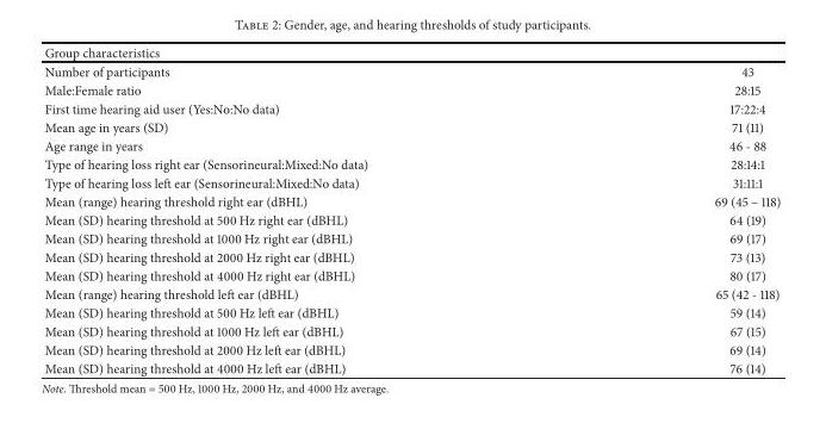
<table><thead><tr><td>Group characteristics</td><td></td></tr></thead><tbody><tr><td>Number of participants</td><td>43</td></tr><tr><td>Male:Female ratio</td><td>28:15</td></tr><tr><td>First time hearing aid user (Yes:No:No data)</td><td>17:22:4</td></tr><tr><td>Mean age in years (SD)</td><td>71 (11)</td></tr><tr><td>Age range in years</td><td>46 - 88</td></tr><tr><td>Type of hearing loss right ear (Sensorineural:Mixed:No data)</td><td>28:14:1</td></tr><tr><td>Type of hearing loss left ear (Sensorineural:Mixed:No data)</td><td>31:11:1</td></tr><tr><td>Mean (range) hearing threshold right ear (dBHL)</td><td>69 (45 – 118)</td></tr><tr><td>Mean (SD) hearing threshold at 500 Hz right ear (dBHL)</td><td>64 (19)</td></tr><tr><td>Mean (SD) hearing threshold at 1000 Hz right ear (dBHL)</td><td>69 (17)</td></tr><tr><td>Mean (SD) hearing threshold at 2000 Hz right ear (dBHL)</td><td>73 (13)</td></tr><tr><td>Mean (SD) hearing threshold at 4000 Hz right ear (dBHL)</td><td>80 (17)</td></tr><tr><td>Mean (range) hearing threshold left ear (dBHL)</td><td>65 (42 - 118)</td></tr><tr><td>Mean (SD) hearing threshold at 500 Hz left ear (dBHL)</td><td>59 (14)</td></tr><tr><td>Mean (SD) hearing threshold at 1000 Hz left ear (dBHL)</td><td>67 (15)</td></tr><tr><td>Mean (SD) hearing threshold at 2000 Hz left ear (dBHL)</td><td>69 (14)</td></tr><tr><td>Mean (SD) hearing threshold at 4000 Hz left ear (dBHL)</td><td>76 (14)</td></tr></tbody></table>